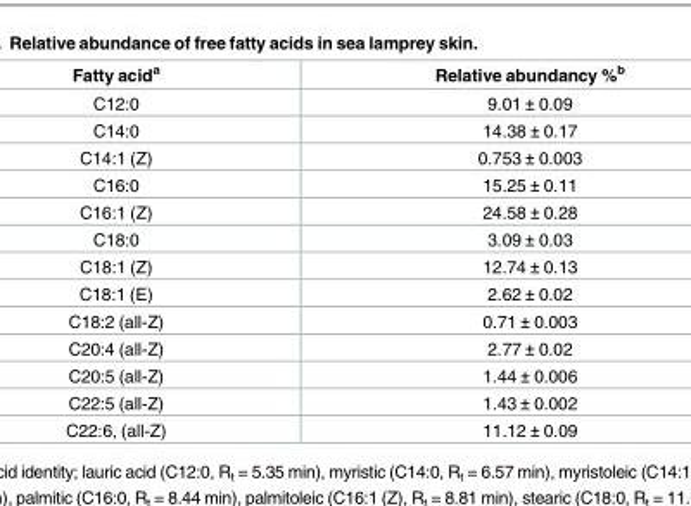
<table><thead><tr><td>Fatty acid<sup>a</sup></td><td>Relative abundancy %<sup>b</sup></td></tr></thead><tbody><tr><td>C12:0</td><td>9.01 ± 0.09</td></tr><tr><td>C14:0</td><td>14.38 ± 0.17</td></tr><tr><td>C14:1 (Z)</td><td>0.753 ± 0.003</td></tr><tr><td>C16:0</td><td>15.25 ± 0.11</td></tr><tr><td>C16:1 (Z)</td><td>24.58 ± 0.28</td></tr><tr><td>C18:0</td><td>3.09 ± 0.03</td></tr><tr><td>C18:1 (Z)</td><td>12.74 ± 0.13</td></tr><tr><td>C18:1 (E)</td><td>2.62 ± 0.02</td></tr><tr><td>C18:2 (all-Z)</td><td>0.71 ± 0.003</td></tr><tr><td>C20:4 (all-Z)</td><td>2.77 ± 0.02</td></tr><tr><td>C20:5 (all-Z)</td><td>1.44 ± 0.006</td></tr><tr><td>C22:5 (all-Z)</td><td>1.43 ± 0.002</td></tr><tr><td>C22:6, (all-Z)</td><td>11.12 ± 0.09</td></tr></tbody></table>